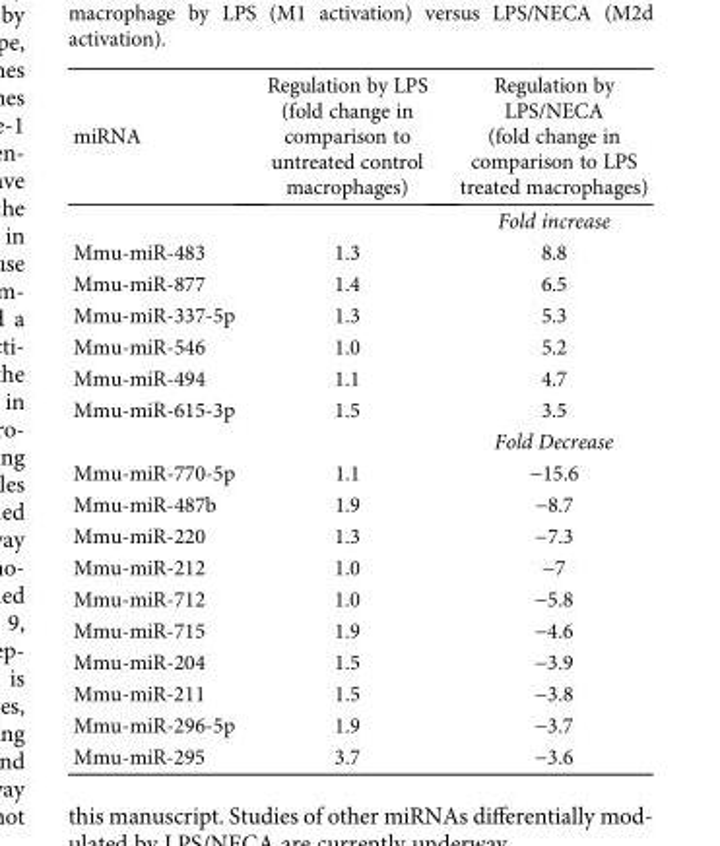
<table><thead><tr><td>miRNA</td><td>Regulation by LPS (fold change in comparison to untreated control macrophages)</td><td>Regulation by LPS/NECA (fold change in comparison to LPS treated macrophages)</td></tr></thead><tbody><tr><td></td><td></td><td>Fold increase</td></tr><tr><td>Mmu-miR-483</td><td>1.3</td><td>8.8</td></tr><tr><td>Mmu-miR-877</td><td>1.4</td><td>6.5</td></tr><tr><td>Mmu-miR-337-5p</td><td>1.3</td><td>5.3</td></tr><tr><td>Mmu-miR-546</td><td>1.0</td><td>5.2</td></tr><tr><td>Mmu-miR-494</td><td>1.1</td><td>4.7</td></tr><tr><td rowspan="2">Mmu-miR-615-3p</td><td>1.5</td><td>3.5</td></tr><tr><td></td><td>Fold Decrease</td></tr><tr><td>Mmu-miR-770-5p</td><td>1.1</td><td>−15.6</td></tr><tr><td>Mmu-miR-487b</td><td>1.9</td><td>−8.7</td></tr><tr><td>Mmu-miR-220</td><td>1.3</td><td>−7.3</td></tr><tr><td>Mmu-miR-212</td><td>1.0</td><td>−7</td></tr><tr><td>Mmu-miR-712</td><td>1.0</td><td>−5.8</td></tr><tr><td>Mmu-miR-715</td><td>1.9</td><td>−4.6</td></tr><tr><td>Mmu-miR-204</td><td>1.5</td><td>−3.9</td></tr><tr><td>Mmu-miR-211</td><td>1.5</td><td>−3.8</td></tr><tr><td>Mmu-miR-296-5p</td><td>1.9</td><td>−3.7</td></tr><tr><td>Mmu-miR-295</td><td>3.7</td><td>−3.6</td></tr></tbody></table>